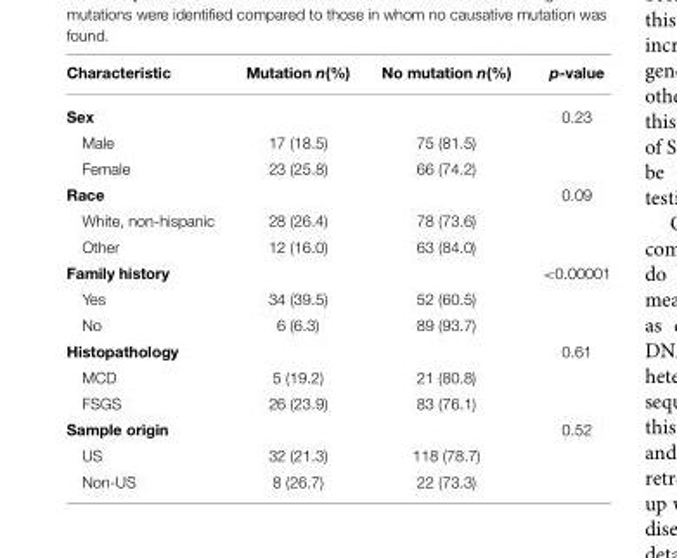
<table><thead><tr><td>Characteristic</td><td>Mutation n(%)</td><td>No mutation n(%)</td><td>p-value</td></tr></thead><tbody><tr><td>Sex</td><td></td><td></td><td>0.23</td></tr><tr><td>Male</td><td>17 (18.5)</td><td>75 (81.5)</td><td></td></tr><tr><td>Female</td><td>23 (25.8)</td><td>66 (74.2)</td><td></td></tr><tr><td>Race</td><td></td><td></td><td>0.09</td></tr><tr><td>White, non-hispanic</td><td>28 (26.4)</td><td>78 (73.6)</td><td></td></tr><tr><td>Other</td><td>12 (16.0)</td><td>63 (84.0)</td><td></td></tr><tr><td>Family history</td><td></td><td></td><td>&lt;0.00001</td></tr><tr><td>Yes</td><td>34 (39.5)</td><td>52 (60.5)</td><td></td></tr><tr><td>No</td><td>6 (6.3)</td><td>89 (93.7)</td><td></td></tr><tr><td>Histopathology</td><td></td><td></td><td>0.61</td></tr><tr><td>MCD</td><td>5 (19.2)</td><td>21 (80.8)</td><td></td></tr><tr><td>FSGS</td><td>26 (23.9)</td><td>83 (76.1)</td><td></td></tr><tr><td>Sample origin</td><td></td><td></td><td>0.52</td></tr><tr><td>US</td><td>32 (21.3)</td><td>118 (78.7)</td><td></td></tr><tr><td>Non-US</td><td>8 (26.7)</td><td>22 (73.3)</td><td></td></tr></tbody></table>